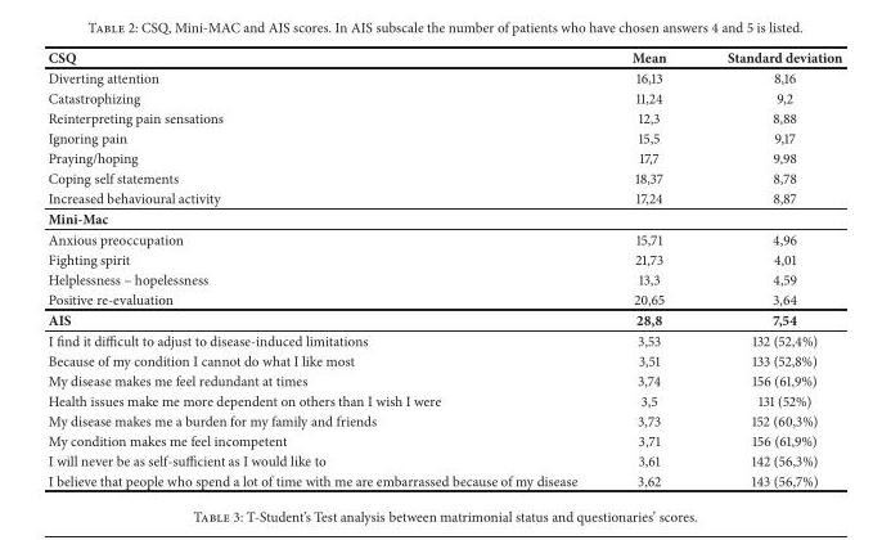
<table><thead><tr><td>CSQ</td><td>Mean</td><td>Standard deviation</td></tr></thead><tbody><tr><td>Diverting attention</td><td>16,13</td><td>8,16</td></tr><tr><td>Catastrophizing</td><td>11,24</td><td>9,2</td></tr><tr><td>Reinterpreting pain sensations</td><td>12,3</td><td>8,88</td></tr><tr><td>Ignoring pain</td><td>15,5</td><td>9,17</td></tr><tr><td>Praying/hoping</td><td>17,7</td><td>9,98</td></tr><tr><td>Coping self statements</td><td>18,37</td><td>8,78</td></tr><tr><td>Increased behavioural activity</td><td>17,24</td><td>8,87</td></tr><tr><td colspan="3">Mini-Mac</td></tr><tr><td>Anxious preoccupation</td><td>15,71</td><td>4,96</td></tr><tr><td>Fighting spirit</td><td>21,73</td><td>4,01</td></tr><tr><td>Helplessness – hopelessness</td><td>13,3</td><td>4,59</td></tr><tr><td>Positive re-evaluation</td><td>20,65</td><td>3,64</td></tr><tr><td>AIS</td><td>28,8</td><td>7,54</td></tr><tr><td>I find it difficult to adjust to disease-induced limitations</td><td>3,53</td><td>132 (52,4%)</td></tr><tr><td>Because of my condition I cannot do what I like most</td><td>3,51</td><td>133 (52,8%)</td></tr><tr><td>My disease makes me feel redundant at times</td><td>3,74</td><td>156 (61,9%)</td></tr><tr><td>Health issues make me more dependent on others than I wish I were</td><td>3,5</td><td>131 (52%)</td></tr><tr><td>My disease makes me a burden for my family and friends</td><td>3,73</td><td>152 (60,3%)</td></tr><tr><td>My condition makes me feel incompetent</td><td>3,71</td><td>156 (61,9%)</td></tr><tr><td>I will never be as self-sufficient as I would like to</td><td>3,61</td><td>142 (56,3%)</td></tr><tr><td>I believe that people who spend a lot of time with me are embarrassed because of my disease</td><td>3,62</td><td>143 (56,7%)</td></tr></tbody></table>